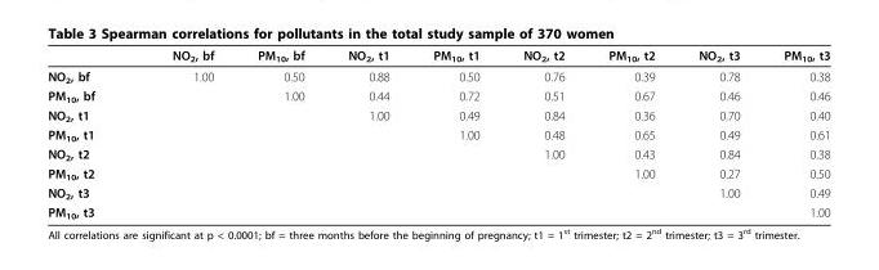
<table><thead><tr><td></td><td>NO<sub>2</sub>, bf</td><td>PM<sub>10</sub>, bf</td><td>NO<sub>2</sub>, t1</td><td>PM<sub>10</sub>, t1</td><td>NO<sub>2</sub>, t2</td><td>PM<sub>10</sub>, t2</td><td>NO<sub>2</sub>, t3</td><td>PM<sub>10</sub>, t3</td></tr></thead><tbody><tr><td>NO<sub>2</sub>, bf</td><td>1.00</td><td>0.50</td><td>0.88</td><td>0.50</td><td>0.76</td><td>0.39</td><td>0.78</td><td>0.38</td></tr><tr><td>PM<sub>10</sub>, bf</td><td></td><td>1.00</td><td>0.44</td><td>0.72</td><td>0.51</td><td>0.67</td><td>0.46</td><td>0.46</td></tr><tr><td>NO<sub>2</sub>, t1</td><td></td><td></td><td>1.00</td><td>0.49</td><td>0.84</td><td>0.36</td><td>0.70</td><td>0.40</td></tr><tr><td>PM<sub>10</sub>, t1</td><td></td><td></td><td></td><td>1.00</td><td>0.48</td><td>0.65</td><td>0.49</td><td>0.61</td></tr><tr><td>NO<sub>2</sub>, t2</td><td></td><td></td><td></td><td></td><td>1.00</td><td>0.43</td><td>0.84</td><td>0.38</td></tr><tr><td>PM<sub>10</sub>, t2</td><td></td><td></td><td></td><td></td><td></td><td>1.00</td><td>0.27</td><td>0.50</td></tr><tr><td>NO<sub>2</sub>, t3</td><td></td><td></td><td></td><td></td><td></td><td></td><td>1.00</td><td>0.49</td></tr><tr><td>PM<sub>10</sub>, t3</td><td></td><td></td><td></td><td></td><td></td><td></td><td></td><td>1.00</td></tr></tbody></table>